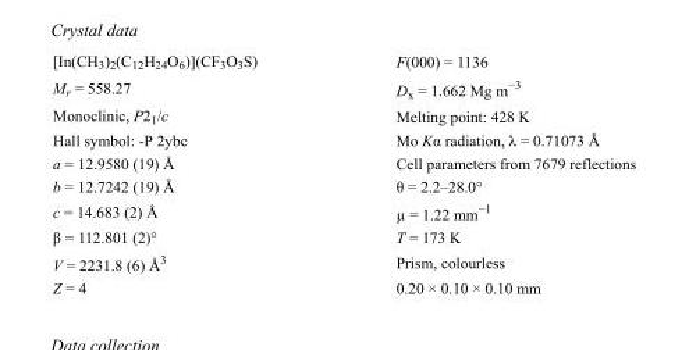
<table><tbody><tr><td>[In(CH<sub>3</sub>)<sub>2</sub>(C<sub>12</sub>H<sub>24</sub>O<sub>6</sub>)](CF<sub>3</sub>O<sub>3</sub>S)</td><td>F(000) = 1136</td></tr><tr><td>M<sub>r</sub> = 558.27</td><td>D<sub>x</sub> = 1.662 Mg m<sup>−3</sup></td></tr><tr><td>Monoclinic, P2<sub>1</sub>/c</td><td>Melting point: 428 K</td></tr><tr><td>Hall symbol: -P 2ybc</td><td>Mo Kα radiation, λ = 0.71073 Å</td></tr><tr><td>a = 12.9580 (19) Å</td><td>Cell parameters from 7679 reflections</td></tr><tr><td>b = 12.7242 (19) Å</td><td>θ = 2.2–28.0°</td></tr><tr><td>c = 14.683 (2) Å</td><td>µ = 1.22 mm<sup>−1</sup></td></tr><tr><td>β = 112.801 (2)°</td><td>T = 173 K</td></tr><tr><td>V = 2231.8 (6) Å<sup>3</sup></td><td>Prism, colourless</td></tr><tr><td>Z = 4</td><td>0.20 × 0.10 × 0.10 mm</td></tr></tbody></table>